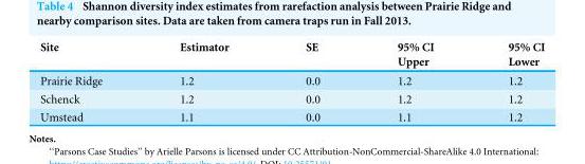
<table><thead><tr><td>Site</td><td>Estimator</td><td>SE</td><td>95% CI Upper</td><td>95% CI Lower</td></tr></thead><tbody><tr><td>Prairie Ridge</td><td>1.2</td><td>0.0</td><td>1.2</td><td>1.2</td></tr><tr><td>Schenck</td><td>1.2</td><td>0.0</td><td>1.2</td><td>1.2</td></tr><tr><td>Umstead</td><td>1.1</td><td>0.0</td><td>1.1</td><td>1.2</td></tr></tbody></table>